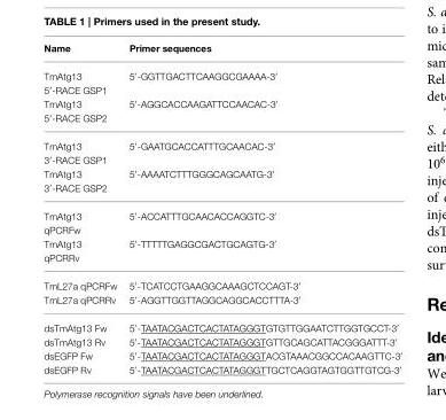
<table><thead><tr><td>Name</td><td>Primer sequences</td></tr></thead><tbody><tr><td>TmAtg13 5′-RACE GSP1 TmAtg13 5′-RACE GSP2</td><td>5′-GGTTGACTTCAAGGCGAAAA-3′ 5′-AGGCACCAAGATTCCAACAC-3′</td></tr><tr><td>TmAtg13 3′-RACE GSP1 TmAtg13 3′-RACE GSP2</td><td>5′-GAATGCACCATTTGCAACAC-3′ 5′-AAAATCTTTGGGCAGCAATG-3′</td></tr><tr><td>TmAtg13 qPCRFw TmAtg13 qPCRRv</td><td>5′-ACCATTTGCAACACCAGGTC-3′ 5′-TTTTTGAGGCGACTGCAGTG-3′</td></tr><tr><td>TmL27a qPCRFw TmL27a qPCRRv</td><td>5′-TCATCCTGAAGGCAAAGCTCCAGT-3′ 5′-AGGTTGGTTAGGCAGGCACCTTTA-3′</td></tr><tr><td>dsTmAtg13 Fw dsTmAtg13 Rv dsEGFP Fw dsEGFP Rv</td><td>5′-TAATACGACTCACTATAGGGTGTGTTGGAATCTTGGTGCCT-3′ 5′-TAATACGACTCACTATAGGGTGTTGCAGCATTACGGGATTT-3′ 5′-TAATACGACTCACTATAGGGTACGTAAACGGCCACAAGTTC-3′ 5′-TAATACGACTCACTATAGGGTTGCTCAGGTAGTGGTTGTCG-3′</td></tr></tbody></table>